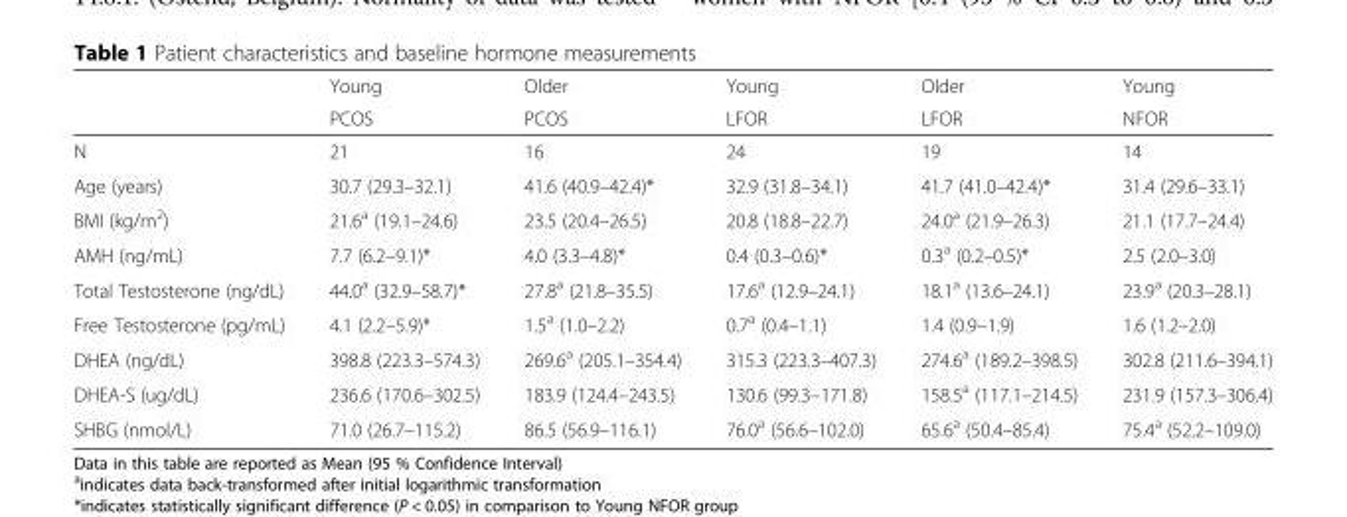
<table><thead><tr><td rowspan="2"></td><td rowspan="2">Young PCOS</td><td rowspan="2">Older PCOS</td><td rowspan="2">Young LFOR</td><td rowspan="2">Older LFOR</td><td rowspan="2">Young NFOR</td></tr><tr></tr></thead><tbody><tr><td>N</td><td>21</td><td>16</td><td>24</td><td>19</td><td>14</td></tr><tr><td>Age (years)</td><td>30.7 (29.3–32.1)</td><td>41.6 (40.9–42.4)*</td><td>32.9 (31.8–34.1)</td><td>41.7 (41.0–42.4)*</td><td>31.4 (29.6–33.1)</td></tr><tr><td>BMI (kg/m<sup>2</sup>)</td><td>21.6<sup>a</sup> (19.1–24.6)</td><td>23.5 (20.4–26.5)</td><td>20.8 (18.8–22.7)</td><td>24.0<sup>a</sup> (21.9–26.3)</td><td>21.1 (17.7–24.4)</td></tr><tr><td>AMH (ng/mL)</td><td>7.7 (6.2–9.1)*</td><td>4.0 (3.3–4.8)*</td><td>0.4 (0.3–0.6)*</td><td>0.3<sup>a</sup> (0.2–0.5)*</td><td>2.5 (2.0–3.0)</td></tr><tr><td>Total Testosterone (ng/dL)</td><td>44.0<sup>a</sup> (32.9–58.7)*</td><td>27.8<sup>a</sup> (21.8–35.5)</td><td>17.6<sup>a</sup> (12.9–24.1)</td><td>18.1<sup>a</sup> (13.6–24.1)</td><td>23.9<sup>a</sup> (20.3–28.1)</td></tr><tr><td>Free Testosterone (pg/mL)</td><td>4.1 (2.2–5.9)*</td><td>1.5<sup>a</sup> (1.0–2.2)</td><td>0.7<sup>a</sup> (0.4–1.1)</td><td>1.4 (0.9–1.9)</td><td>1.6 (1.2–2.0)</td></tr><tr><td>DHEA (ng/dL)</td><td>398.8 (223.3–574.3)</td><td>269.6<sup>a</sup> (205.1–354.4)</td><td>315.3 (223.3–407.3)</td><td>274.6<sup>a</sup> (189.2–398.5)</td><td>302.8 (211.6–394.1)</td></tr><tr><td>DHEA-S (ug/dL)</td><td>236.6 (170.6–302.5)</td><td>183.9 (124.4–243.5)</td><td>130.6 (99.3–171.8)</td><td>158.5<sup>a</sup> (117.1–214.5)</td><td>231.9 (157.3–306.4)</td></tr><tr><td>SHBG (nmol/L)</td><td>71.0 (26.7–115.2)</td><td>86.5 (56.9–116.1)</td><td>76.0<sup>a</sup> (56.6–102.0)</td><td>65.6<sup>a</sup> (50.4–85.4)</td><td>75.4<sup>a</sup> (52.2–109.0)</td></tr></tbody></table>